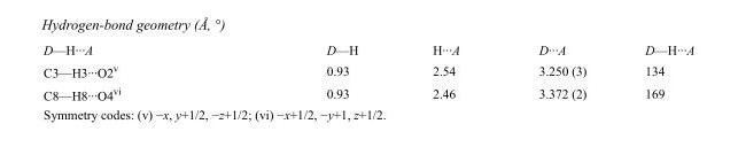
<table><tbody><tr><td>D—H···A</td><td>D—H</td><td>H···A</td><td>D···A</td><td>D—H···A</td></tr><tr><td>C3—H3···O2<sup>v</sup></td><td>0.93</td><td>2.54</td><td>3.250 (3)</td><td>134</td></tr><tr><td>C8—H8···O4<sup>vi</sup></td><td>0.93</td><td>2.46</td><td>3.372 (2)</td><td>169</td></tr></tbody></table>